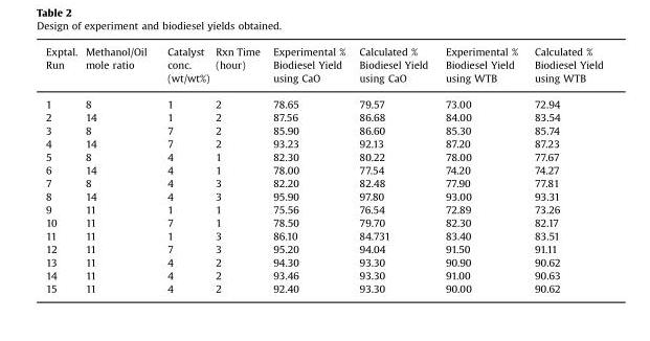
<table><thead><tr><td>Exptal. Run</td><td>Methanol/Oil mole ratio</td><td>Catalyst conc. (wt/wt%)</td><td>Rxn Time (hour)</td><td>Experimental % Biodiesel Yield using CaO</td><td>Calculated % Biodiesel Yield using CaO</td><td>Experimental % Biodiesel Yield using WTB</td><td>Calculated % Biodiesel Yield using WTB</td></tr></thead><tbody><tr><td>1</td><td>8</td><td>1</td><td>2</td><td>78.65</td><td>79.57</td><td>73.00</td><td>72.94</td></tr><tr><td>2</td><td>14</td><td>1</td><td>2</td><td>87.56</td><td>86.68</td><td>84.00</td><td>83.54</td></tr><tr><td>3</td><td>8</td><td>7</td><td>2</td><td>85.90</td><td>86.60</td><td>85.30</td><td>85.74</td></tr><tr><td>4</td><td>14</td><td>7</td><td>2</td><td>93.23</td><td>92.13</td><td>87.20</td><td>87.23</td></tr><tr><td>5</td><td>8</td><td>4</td><td>1</td><td>82.30</td><td>80.22</td><td>78.00</td><td>77.67</td></tr><tr><td>6</td><td>14</td><td>4</td><td>1</td><td>78.00</td><td>77.54</td><td>74.20</td><td>74.27</td></tr><tr><td>7</td><td>8</td><td>4</td><td>3</td><td>82.20</td><td>82.48</td><td>77.90</td><td>77.81</td></tr><tr><td>8</td><td>14</td><td>4</td><td>3</td><td>95.90</td><td>97.80</td><td>93.00</td><td>93.31</td></tr><tr><td>9</td><td>11</td><td>1</td><td>1</td><td>75.56</td><td>76.54</td><td>72.89</td><td>73.26</td></tr><tr><td>10</td><td>11</td><td>7</td><td>1</td><td>78.50</td><td>79.70</td><td>82.30</td><td>82.17</td></tr><tr><td>11</td><td>11</td><td>1</td><td>3</td><td>86.10</td><td>84.731</td><td>83.40</td><td>83.51</td></tr><tr><td>12</td><td>11</td><td>7</td><td>3</td><td>95.20</td><td>94.04</td><td>91.50</td><td>91.11</td></tr><tr><td>13</td><td>11</td><td>4</td><td>2</td><td>94.30</td><td>93.30</td><td>90.90</td><td>90.62</td></tr><tr><td>14</td><td>11</td><td>4</td><td>2</td><td>93.46</td><td>93.30</td><td>91.00</td><td>90.63</td></tr><tr><td>15</td><td>11</td><td>4</td><td>2</td><td>92.40</td><td>93.30</td><td>90.00</td><td>90.62</td></tr></tbody></table>